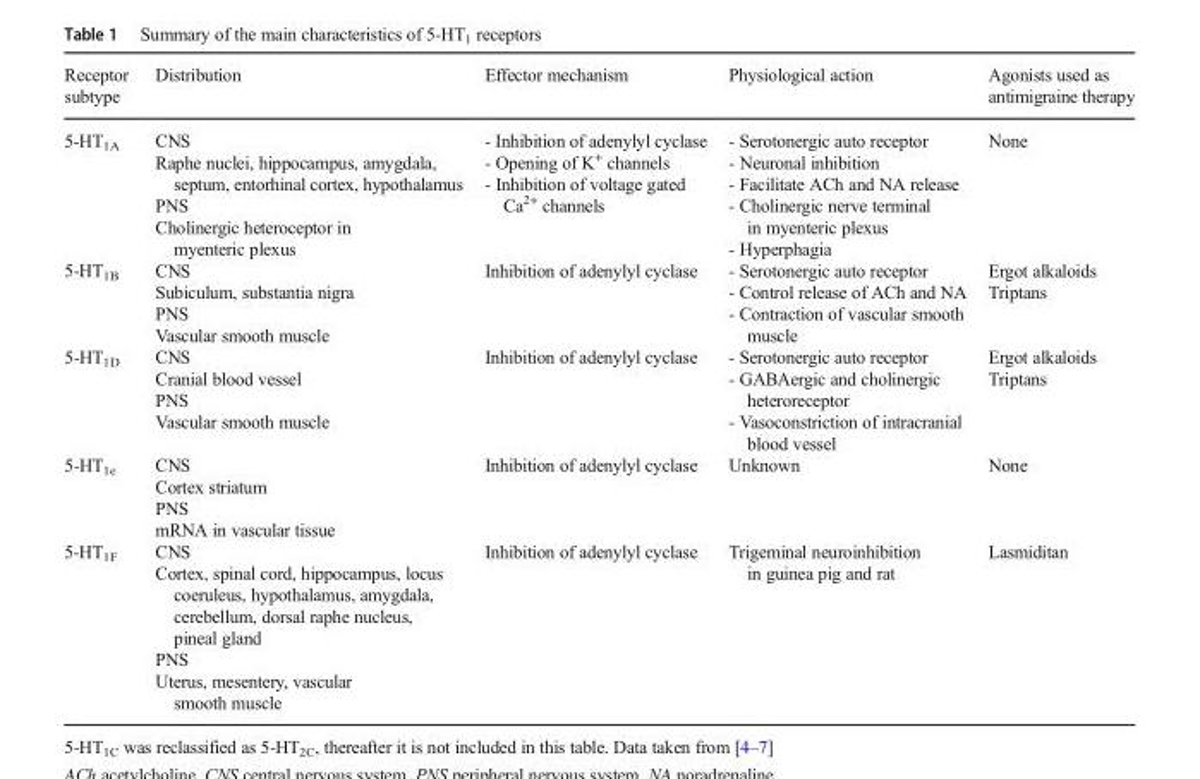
<table><thead><tr><td>Receptor subtype</td><td>Distribution</td><td>Effector mechanism</td><td>Physiological action</td><td>Agonists used as antimigraine therapy</td></tr></thead><tbody><tr><td>5-HT<sub>1A</sub></td><td>CNS Raphe nuclei, hippocampus, amygdala, septum, entorhinal cortex, hypothalamus PNS Cholinergic heteroceptor in myenteric plexus</td><td>- Inhibition of adenylyl cyclase - Opening of K<sup>+</sup> channels - Inhibition of voltage gated Ca<sup>2+</sup> channels</td><td>- Serotonergic auto receptor - Neuronal inhibition - Facilitate ACh and NA release - Cholinergic nerve terminal in myenteric plexus - Hyperphagia</td><td>None</td></tr><tr><td>5-HT<sub>1B</sub></td><td>CNS Subiculum, substantia nigra PNS Vascular smooth muscle</td><td>Inhibition of adenylyl cyclase</td><td>- Serotonergic auto receptor - Control release of ACh and NA - Contraction of vascular smooth muscle</td><td>Ergot alkaloids Triptans</td></tr><tr><td>5-HT<sub>1D</sub></td><td>CNS Cranial blood vessel PNS Vascular smooth muscle</td><td>Inhibition of adenylyl cyclase</td><td>- Serotonergic auto receptor - GABAergic and cholinergic heteroreceptor - Vasoconstriction of intracranial blood vessel</td><td>Ergot alkaloids Triptans</td></tr><tr><td>5-HT<sub>1e</sub></td><td>CNS Cortex striatum PNS mRNA in vascular tissue</td><td>Inhibition of adenylyl cyclase</td><td>Unknown</td><td>None</td></tr><tr><td>5-HT<sub>1F</sub></td><td>CNS Cortex, spinal cord, hippocampus, locus coeruleus, hypothalamus, amygdala, cerebellum, dorsal raphe nucleus, pineal gland PNS Uterus, mesentery, vascular smooth muscle</td><td>Inhibition of adenylyl cyclase</td><td>Trigeminal neuroinhibition in guinea pig and rat</td><td>Lasmiditan</td></tr></tbody></table>